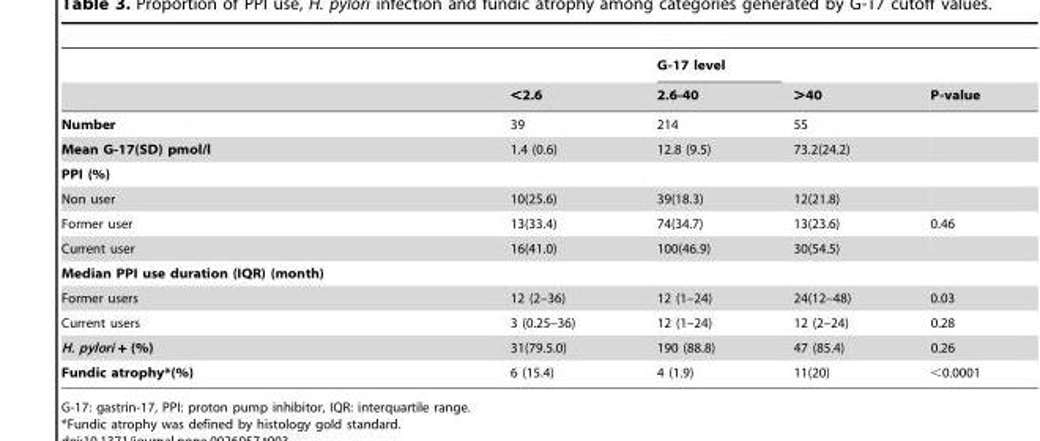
<table><thead><tr><td rowspan="2"></td><td rowspan="2">&lt;2.6</td><td rowspan="2">G-17 level 2.6-40</td><td rowspan="2">&gt;40</td><td rowspan="2">P-value</td></tr><tr></tr></thead><tbody><tr><td>Number</td><td>39</td><td>214</td><td>55</td><td></td></tr><tr><td>Mean G-17(SD) pmol/l</td><td>1.4 (0.6)</td><td>12.8 (9.5)</td><td>73.2(24.2)</td><td></td></tr><tr><td colspan="5">PPI (%)</td></tr><tr><td>Non user</td><td>10(25.6)</td><td>39(18.3)</td><td>12(21.8)</td><td></td></tr><tr><td>Former user</td><td>13(33.4)</td><td>74(34.7)</td><td>13(23.6)</td><td>0.46</td></tr><tr><td>Current user</td><td>16(41.0)</td><td>100(46.9)</td><td>30(54.5)</td><td></td></tr><tr><td colspan="5">Median PPI use duration (IQR) (month)</td></tr><tr><td>Former users</td><td>12 (2–36)</td><td>12 (1–24)</td><td>24(12–48)</td><td>0.03</td></tr><tr><td>Current users</td><td>3 (0.25–36)</td><td>12 (1–24)</td><td>12 (2–24)</td><td>0.28</td></tr><tr><td>H. pylori + (%)</td><td>31(79.5.0)</td><td>190 (88.8)</td><td>47 (85.4)</td><td>0.26</td></tr><tr><td>Fundic atrophy*(%)</td><td>6 (15.4)</td><td>4 (1.9)</td><td>11(20)</td><td>&lt;0.0001</td></tr></tbody></table>